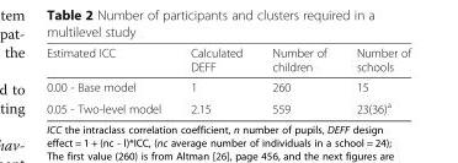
<table><thead><tr><td>Estimated ICC</td><td>Calculated DEFF</td><td>Number of children</td><td>Number of schools</td></tr></thead><tbody><tr><td>0.00 - Base model</td><td>1</td><td>260</td><td>15</td></tr><tr><td>0.05 - Two-level model</td><td>2.15</td><td>559</td><td>23(36)<sup>a</sup></td></tr></tbody></table>